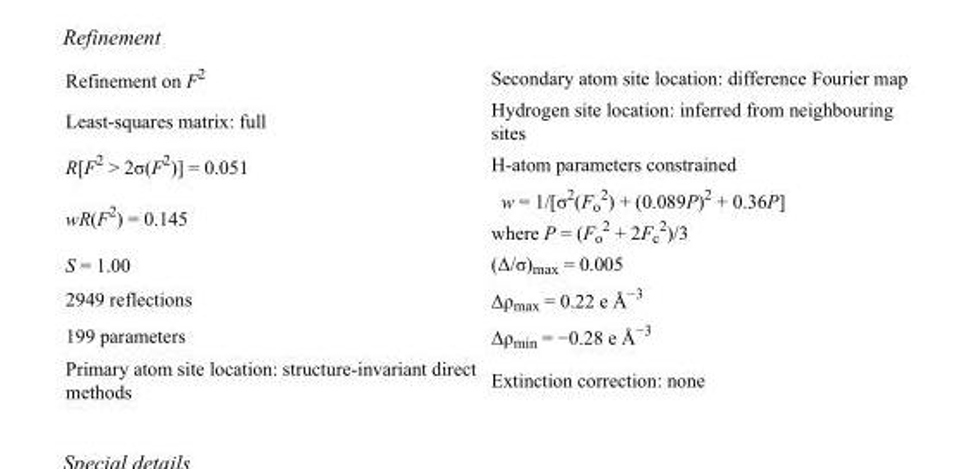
<table><tbody><tr><td>Refinement on F<sup>2</sup></td><td>Secondary atom site location: difference Fourier map</td></tr><tr><td>Least-squares matrix: full</td><td>Hydrogen site location: inferred from neighbouring sites</td></tr><tr><td>R[F<sup>2</sup> &gt; 2σ(F<sup>2</sup>)] = 0.051</td><td>H-atom parameters constrained</td></tr><tr><td>wR(F<sup>2</sup>) = 0.145</td><td>w = 1/[σ<sup>2</sup>(F<sub>o</sub> <sup>2</sup>) + (0.089P)<sup>2</sup> + 0.36P] where P = (F<sub>o</sub> <sup>2</sup> + 2F<sub>c</sub> <sup>2</sup>)/3</td></tr><tr><td>S = 1.00</td><td>(Δ/σ)<sub>max</sub> = 0.005</td></tr><tr><td>2949 reflections</td><td>Δρ<sub>max</sub> = 0.22 e Å<sup>−3</sup></td></tr><tr><td>199 parameters</td><td>Δρ<sub>min</sub> = −0.28 e Å<sup>−3</sup></td></tr><tr><td>Primary atom site location: structure-invariant direct methods</td><td>Extinction correction: none</td></tr></tbody></table>